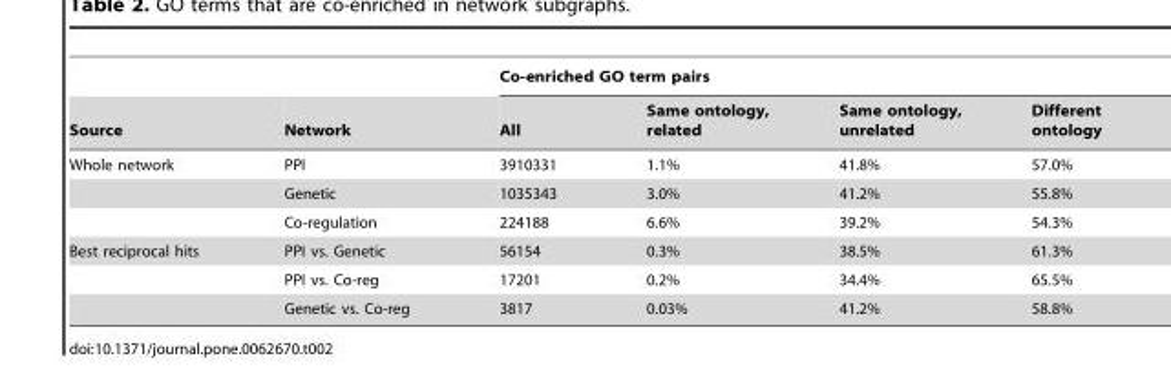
<table><thead><tr><td rowspan="2">Source</td><td rowspan="2">Network</td><td colspan="4">Co-enriched GO term pairs</td></tr><tr><td>All</td><td>Same ontology, related</td><td>Same ontology, unrelated</td><td>Different ontology</td></tr></thead><tbody><tr><td rowspan="3">Whole network</td><td>PPI</td><td>3910331</td><td>1.1%</td><td>41.8%</td><td>57.0%</td></tr><tr><td>Genetic</td><td>1035343</td><td>3.0%</td><td>41.2%</td><td>55.8%</td></tr><tr><td>Co-regulation</td><td>224188</td><td>6.6%</td><td>39.2%</td><td>54.3%</td></tr><tr><td rowspan="3">Best reciprocal hits</td><td>PPI vs. Genetic</td><td>56154</td><td>0.3%</td><td>38.5%</td><td>61.3%</td></tr><tr><td>PPI vs. Co-reg</td><td>17201</td><td>0.2%</td><td>34.4%</td><td>65.5%</td></tr><tr><td>Genetic vs. Co-reg</td><td>3817</td><td>0.03%</td><td>41.2%</td><td>58.8%</td></tr></tbody></table>